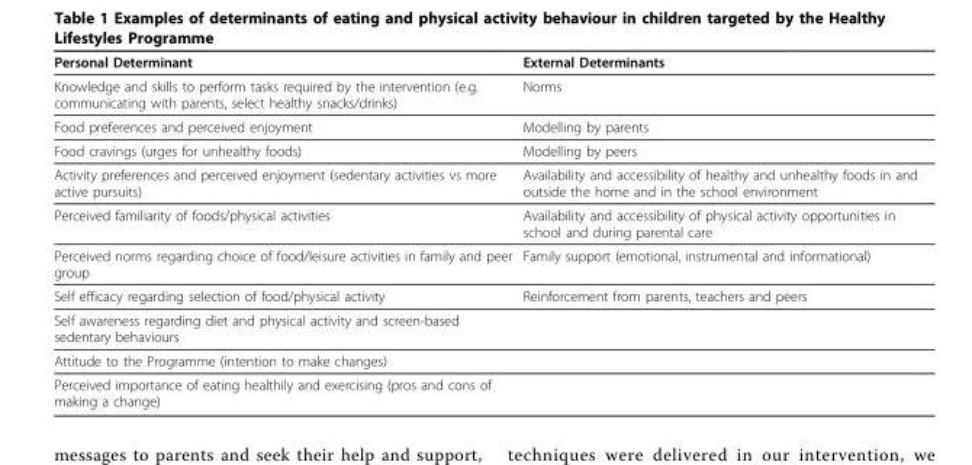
<table><thead><tr><td>Personal Determinant</td><td>External Determinants</td></tr></thead><tbody><tr><td>Knowledge and skills to perform tasks required by the intervention (e.g. communicating with parents, select healthy snacks/drinks)</td><td>Norms</td></tr><tr><td>Food preferences and perceived enjoyment</td><td>Modelling by parents</td></tr><tr><td>Food cravings (urges for unhealthy foods)</td><td>Modelling by peers</td></tr><tr><td>Activity preferences and perceived enjoyment (sedentary activities vs more active pursuits)</td><td>Availability and accessibility of healthy and unhealthy foods in and outside the home and in the school environment</td></tr><tr><td>Perceived familiarity of foods/physical activities</td><td>Availability and accessibility of physical activity opportunities in school and during parental care</td></tr><tr><td>Perceived norms regarding choice of food/leisure activities in family and peer group</td><td>Family support (emotional, instrumental and informational)</td></tr><tr><td>Self efficacy regarding selection of food/physical activity</td><td>Reinforcement from parents, teachers and peers</td></tr><tr><td colspan="2">Self awareness regarding diet and physical activity and screen-based sedentary behaviours</td></tr><tr><td colspan="2">Attitude to the Programme (intention to make changes)</td></tr><tr><td>Perceived importance of eating healthily and exercising (pros and cons of making a change)</td><td></td></tr></tbody></table>